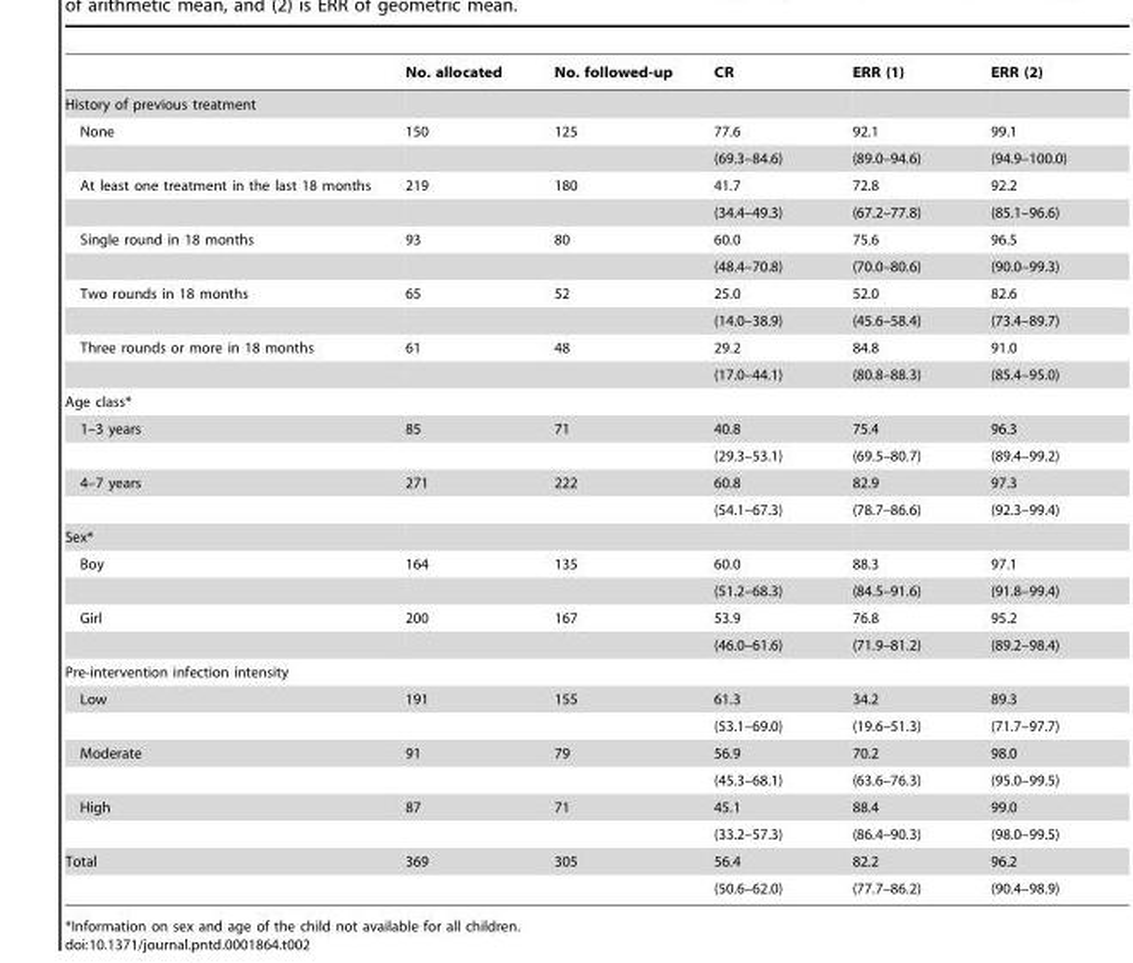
<table><thead><tr><td></td><td>No. allocated</td><td>No. followed-up</td><td>CR</td><td>ERR (1)</td><td>ERR (2)</td></tr></thead><tbody><tr><td colspan="6">History of previous treatment</td></tr><tr><td rowspan="2">None</td><td>150</td><td>125</td><td>77.6</td><td>92.1</td><td>99.1</td></tr><tr><td></td><td></td><td>(69.3–84.6)</td><td>(89.0–94.6)</td><td>(94.9–100.0)</td></tr><tr><td rowspan="2">At least one treatment in the last 18 months</td><td>219</td><td>180</td><td>41.7</td><td>72.8</td><td>92.2</td></tr><tr><td></td><td></td><td>(34.4–49.3)</td><td>(67.2–77.8)</td><td>(85.1–96.6)</td></tr><tr><td rowspan="2">Single round in 18 months</td><td>93</td><td>80</td><td>60.0</td><td>75.6</td><td>96.5</td></tr><tr><td></td><td></td><td>(48.4–70.8)</td><td>(70.0–80.6)</td><td>(90.0–99.3)</td></tr><tr><td rowspan="2">Two rounds in 18 months</td><td>65</td><td>52</td><td>25.0</td><td>52.0</td><td>82.6</td></tr><tr><td></td><td></td><td>(14.0–38.9)</td><td>(45.6–58.4)</td><td>(73.4–89.7)</td></tr><tr><td rowspan="2">Three rounds or more in 18 months</td><td>61</td><td>48</td><td>29.2</td><td>84.8</td><td>91.0</td></tr><tr><td></td><td></td><td>(17.0–44.1)</td><td>(80.8–88.3)</td><td>(85.4–95.0)</td></tr><tr><td colspan="6">Age class*</td></tr><tr><td rowspan="2">1–3 years</td><td>85</td><td>71</td><td>40.8</td><td>75.4</td><td>96.3</td></tr><tr><td></td><td></td><td>(29.3–53.1)</td><td>(69.5–80.7)</td><td>(89.4–99.2)</td></tr><tr><td rowspan="2">4–7 years</td><td>271</td><td>222</td><td>60.8</td><td>82.9</td><td>97.3</td></tr><tr><td></td><td></td><td>(54.1–67.3)</td><td>(78.7–86.6)</td><td>(92.3–99.4)</td></tr><tr><td colspan="6">Sex*</td></tr><tr><td rowspan="2">Boy</td><td>164</td><td>135</td><td>60.0</td><td>88.3</td><td>97.1</td></tr><tr><td></td><td></td><td>(51.2–68.3)</td><td>(84.5–91.6)</td><td>(91.8–99.4)</td></tr><tr><td rowspan="2">Girl</td><td>200</td><td>167</td><td>53.9</td><td>76.8</td><td>95.2</td></tr><tr><td></td><td></td><td>(46.0–61.6)</td><td>(71.9–81.2)</td><td>(89.2–98.4)</td></tr><tr><td colspan="6">Pre-intervention infection intensity</td></tr><tr><td rowspan="2">Low</td><td>191</td><td>155</td><td>61.3</td><td>34.2</td><td>89.3</td></tr><tr><td></td><td></td><td>(53.1–69.0)</td><td>(19.6–51.3)</td><td>(71.7–97.7)</td></tr><tr><td rowspan="2">Moderate</td><td>91</td><td>79</td><td>56.9</td><td>70.2</td><td>98.0</td></tr><tr><td></td><td></td><td>(45.3–68.1)</td><td>(63.6–76.3)</td><td>(95.0–99.5)</td></tr><tr><td rowspan="2">High</td><td>87</td><td>71</td><td>45.1</td><td>88.4</td><td>99.0</td></tr><tr><td></td><td></td><td>(33.2–57.3)</td><td>(86.4–90.3)</td><td>(98.0–99.5)</td></tr><tr><td rowspan="2">Total</td><td>369</td><td>305</td><td>56.4</td><td>82.2</td><td>96.2</td></tr><tr><td></td><td></td><td>(50.6–62.0)</td><td>(77.7–86.2)</td><td>(90.4–98.9)</td></tr></tbody></table>